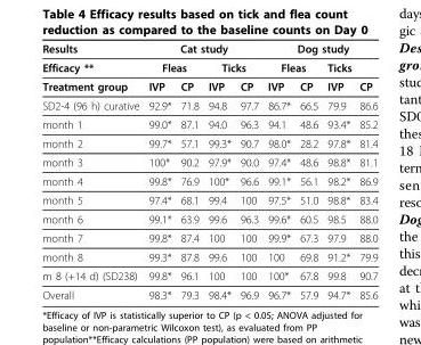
<table><thead><tr><td rowspan="3">Results Efficacy ** Treatment group</td><td colspan="4">Cat study</td><td colspan="4">Dog study</td></tr><tr><td colspan="2">Fleas</td><td colspan="2">Ticks</td><td colspan="2">Fleas</td><td colspan="2">Ticks</td></tr><tr><td>IVP</td><td>CP</td><td>IVP</td><td>CP</td><td>IVP</td><td>CP</td><td>IVP</td><td>CP</td></tr></thead><tbody><tr><td>SD2-4 (96 h) curative</td><td>92.9*</td><td>71.8</td><td>94.8</td><td>97.7</td><td>86.7*</td><td>66.5</td><td>79.9</td><td>86.6</td></tr><tr><td>month 1</td><td>99.0*</td><td>87.1</td><td>94.0</td><td>96.3</td><td>94.1</td><td>48.6</td><td>93.4*</td><td>85.2</td></tr><tr><td>month 2</td><td>99.7*</td><td>57.1</td><td>99.3*</td><td>90.7</td><td>98.0*</td><td>28.2</td><td>97.8*</td><td>81.4</td></tr><tr><td>month 3</td><td>100*</td><td>90.2</td><td>97.9*</td><td>90.0</td><td>97.4*</td><td>48.6</td><td>98.8*</td><td>81.1</td></tr><tr><td>month 4</td><td>99.8*</td><td>76.9</td><td>100*</td><td>96.6</td><td>99.1*</td><td>56.1</td><td>98.2*</td><td>86.9</td></tr><tr><td>month 5</td><td>97.4*</td><td>68.1</td><td>99.4</td><td>100</td><td>97.5*</td><td>51.0</td><td>98.8*</td><td>83.4</td></tr><tr><td>month 6</td><td>99.1*</td><td>63.9</td><td>99.6</td><td>96.3</td><td>99.6*</td><td>60.5</td><td>98.5</td><td>88.0</td></tr><tr><td>month 7</td><td>99.8*</td><td>87.4</td><td>100</td><td>100</td><td>99.9*</td><td>67.3</td><td>97.9</td><td>88.0</td></tr><tr><td>month 8</td><td>99.3*</td><td>87.8</td><td>99.6</td><td>100</td><td>100</td><td>69.8</td><td>91.2*</td><td>79.9</td></tr><tr><td>m 8 (+14 d) (SD238)</td><td>99.8*</td><td>96.1</td><td>100</td><td>100</td><td>100*</td><td>67.8</td><td>99.8</td><td>90.7</td></tr><tr><td>Overall</td><td>98.3*</td><td>79.3</td><td>98.4*</td><td>96.9</td><td>96.7*</td><td>57.9</td><td>94.7*</td><td>85.6</td></tr></tbody></table>